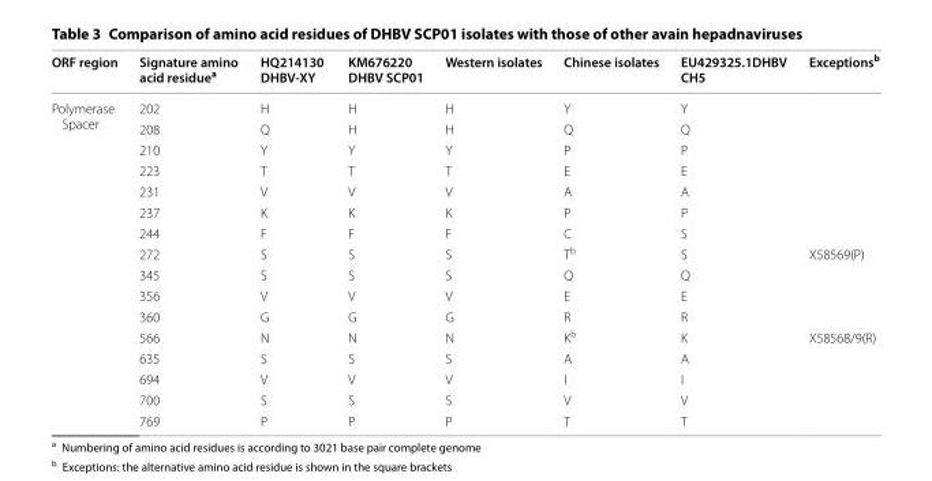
<table><thead><tr><td>ORF region</td><td>Signature amino acid residue<sup>a</sup></td><td>HQ214130 DHBV-XY</td><td>KM676220 DHBV SCP01</td><td>Western isolates</td><td>Chinese isolates</td><td>EU429325.1DHBV CH5</td><td>Exceptions<sup>b</sup></td></tr></thead><tbody><tr><td rowspan="16">Polymerase Spacer</td><td>202</td><td>H</td><td>H</td><td>H</td><td>Y</td><td>Y</td><td></td></tr><tr><td>208</td><td>Q</td><td>H</td><td>H</td><td>Q</td><td>Q</td><td></td></tr><tr><td>210</td><td>Y</td><td>Y</td><td>Y</td><td>P</td><td>P</td><td></td></tr><tr><td>223</td><td>T</td><td>T</td><td>T</td><td>E</td><td>E</td><td></td></tr><tr><td>231</td><td>V</td><td>V</td><td>V</td><td>A</td><td>A</td><td></td></tr><tr><td>237</td><td>K</td><td>K</td><td>K</td><td>P</td><td>P</td><td></td></tr><tr><td>244</td><td>F</td><td>F</td><td>F</td><td>C</td><td>S</td><td></td></tr><tr><td>272</td><td>S</td><td>S</td><td>S</td><td>T<sup>b</sup></td><td>S</td><td>X58569(P)</td></tr><tr><td>345</td><td>S</td><td>S</td><td>S</td><td>Q</td><td>Q</td><td></td></tr><tr><td>356</td><td>V</td><td>V</td><td>V</td><td>E</td><td>E</td><td></td></tr><tr><td>360</td><td>G</td><td>G</td><td>G</td><td>R</td><td>R</td><td></td></tr><tr><td>566</td><td>N</td><td>N</td><td>N</td><td>K<sup>b</sup></td><td>K</td><td>X58568/9(R)</td></tr><tr><td>635</td><td>S</td><td>S</td><td>S</td><td>A</td><td>A</td><td></td></tr><tr><td>694</td><td>V</td><td>V</td><td>V</td><td>I</td><td>I</td><td></td></tr><tr><td>700</td><td>S</td><td>S</td><td>S</td><td>V</td><td>V</td><td></td></tr><tr><td>769</td><td>P</td><td>P</td><td>P</td><td>T</td><td>T</td><td></td></tr></tbody></table>